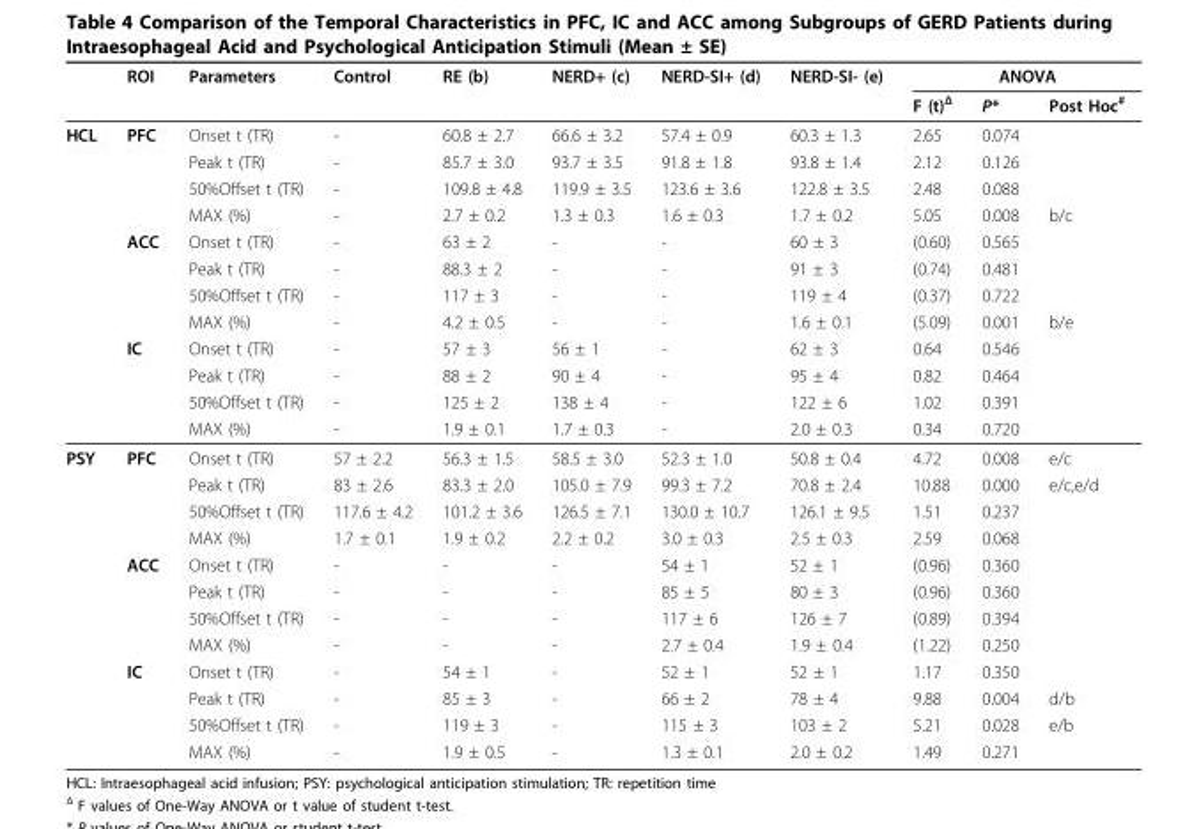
<table><thead><tr><td rowspan="2"></td><td rowspan="2">ROI</td><td rowspan="2">Parameters</td><td rowspan="2">Control</td><td rowspan="2">RE (b)</td><td rowspan="2">NERD+ (c)</td><td rowspan="2">NERD-SI+ (d)</td><td rowspan="2">NERD-SI- (e)</td><td colspan="3">ANOVA</td></tr><tr><td>F (t)<sup>Δ</sup></td><td>P*</td><td>Post Hoc<sup>#</sup></td></tr></thead><tbody><tr><td rowspan="12">HCL</td><td>PFC</td><td>Onset t (TR)</td><td>-</td><td>60.8 ± 2.7</td><td>66.6 ± 3.2</td><td>57.4 ± 0.9</td><td>60.3 ± 1.3</td><td>2.65</td><td>0.074</td><td></td></tr><tr><td></td><td>Peak t (TR)</td><td>-</td><td>85.7 ± 3.0</td><td>93.7 ± 3.5</td><td>91.8 ± 1.8</td><td>93.8 ± 1.4</td><td>2.12</td><td>0.126</td><td></td></tr><tr><td></td><td>50%Offset t (TR)</td><td>-</td><td>109.8 ± 4.8</td><td>119.9 ± 3.5</td><td>123.6 ± 3.6</td><td>122.8 ± 3.5</td><td>2.48</td><td>0.088</td><td></td></tr><tr><td></td><td>MAX (%)</td><td>-</td><td>2.7 ± 0.2</td><td>1.3 ± 0.3</td><td>1.6 ± 0.3</td><td>1.7 ± 0.2</td><td>5.05</td><td>0.008</td><td>b/c</td></tr><tr><td>ACC</td><td>Onset t (TR)</td><td>-</td><td>63 ± 2</td><td>-</td><td>-</td><td>60 ± 3</td><td>(0.60)</td><td>0.565</td><td></td></tr><tr><td></td><td>Peak t (TR)</td><td>-</td><td>88.3 ± 2</td><td>-</td><td>-</td><td>91 ± 3</td><td>(0.74)</td><td>0.481</td><td></td></tr><tr><td></td><td>50%Offset t (TR)</td><td>-</td><td>117 ± 3</td><td>-</td><td>-</td><td>119 ± 4</td><td>(0.37)</td><td>0.722</td><td></td></tr><tr><td></td><td>MAX (%)</td><td>-</td><td>4.2 ± 0.5</td><td>-</td><td>-</td><td>1.6 ± 0.1</td><td>(5.09)</td><td>0.001</td><td>b/e</td></tr><tr><td>IC</td><td>Onset t (TR)</td><td>-</td><td>57 ± 3</td><td>56 ± 1</td><td>-</td><td>62 ± 3</td><td>0.64</td><td>0.546</td><td></td></tr><tr><td></td><td>Peak t (TR)</td><td>-</td><td>88 ± 2</td><td>90 ± 4</td><td>-</td><td>95 ± 4</td><td>0.82</td><td>0.464</td><td></td></tr><tr><td></td><td>50%Offset t (TR)</td><td>-</td><td>125 ± 2</td><td>138 ± 4</td><td>-</td><td>122 ± 6</td><td>1.02</td><td>0.391</td><td></td></tr><tr><td></td><td>MAX (%)</td><td>-</td><td>1.9 ± 0.1</td><td>1.7 ± 0.3</td><td>-</td><td>2.0 ± 0.3</td><td>0.34</td><td>0.720</td><td></td></tr><tr><td rowspan="12">PSY</td><td>PFC</td><td>Onset t (TR)</td><td>57 ± 2.2</td><td>56.3 ± 1.5</td><td>58.5 ± 3.0</td><td>52.3 ± 1.0</td><td>50.8 ± 0.4</td><td>4.72</td><td>0.008</td><td>e/c</td></tr><tr><td></td><td>Peak t (TR)</td><td>83 ± 2.6</td><td>83.3 ± 2.0</td><td>105.0 ± 7.9</td><td>99.3 ± 7.2</td><td>70.8 ± 2.4</td><td>10.88</td><td>0.000</td><td>e/c,e/d</td></tr><tr><td></td><td>50%Offset t (TR)</td><td>117.6 ± 4.2</td><td>101.2 ± 3.6</td><td>126.5 ± 7.1</td><td>130.0 ± 10.7</td><td>126.1 ± 9.5</td><td>1.51</td><td>0.237</td><td></td></tr><tr><td></td><td>MAX (%)</td><td>1.7 ± 0.1</td><td>1.9 ± 0.2</td><td>2.2 ± 0.2</td><td>3.0 ± 0.3</td><td>2.5 ± 0.3</td><td>2.59</td><td>0.068</td><td></td></tr><tr><td>ACC</td><td>Onset t (TR)</td><td>-</td><td>-</td><td>-</td><td>54 ± 1</td><td>52 ± 1</td><td>(0.96)</td><td>0.360</td><td></td></tr><tr><td></td><td>Peak t (TR)</td><td>-</td><td>-</td><td>-</td><td>85 ± 5</td><td>80 ± 3</td><td>(0.96)</td><td>0.360</td><td></td></tr><tr><td></td><td>50%Offset t (TR)</td><td>-</td><td>-</td><td>-</td><td>117 ± 6</td><td>126 ± 7</td><td>(0.89)</td><td>0.394</td><td></td></tr><tr><td></td><td>MAX (%)</td><td>-</td><td>-</td><td>-</td><td>2.7 ± 0.4</td><td>1.9 ± 0.4</td><td>(1.22)</td><td>0.250</td><td></td></tr><tr><td>IC</td><td>Onset t (TR)</td><td>-</td><td>54 ± 1</td><td>-</td><td>52 ± 1</td><td>52 ± 1</td><td>1.17</td><td>0.350</td><td></td></tr><tr><td></td><td>Peak t (TR)</td><td>-</td><td>85 ± 3</td><td>-</td><td>66 ± 2</td><td>78 ± 4</td><td>9.88</td><td>0.004</td><td>d/b</td></tr><tr><td></td><td>50%Offset t (TR)</td><td>-</td><td>119 ± 3</td><td>-</td><td>115 ± 3</td><td>103 ± 2</td><td>5.21</td><td>0.028</td><td>e/b</td></tr><tr><td></td><td>MAX (%)</td><td>-</td><td>1.9 ± 0.5</td><td>-</td><td>1.3 ± 0.1</td><td>2.0 ± 0.2</td><td>1.49</td><td>0.271</td><td></td></tr></tbody></table>